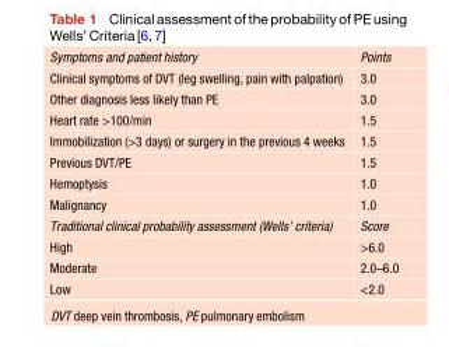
<table><tbody><tr><td>Symptoms and patient history</td><td>Points</td></tr><tr><td>Clinical symptoms of DVT (leg swelling, pain with palpation)</td><td>3.0</td></tr><tr><td>Other diagnosis less likely than PE</td><td>3.0</td></tr><tr><td>Heart rate &gt;100/min</td><td>1.5</td></tr><tr><td>Immobilization (&gt;3 days) or surgery in the previous 4 weeks</td><td>1.5</td></tr><tr><td>Previous DVT/PE</td><td>1.5</td></tr><tr><td>Hemoptysis</td><td>1.0</td></tr><tr><td>Malignancy</td><td>1.0</td></tr><tr><td>Traditional clinical probability assessment (Wells’ criteria)</td><td>Score</td></tr><tr><td>High</td><td>&gt;6.0</td></tr><tr><td>Moderate</td><td>2.0–6.0</td></tr><tr><td>Low</td><td>&lt;2.0</td></tr></tbody></table>